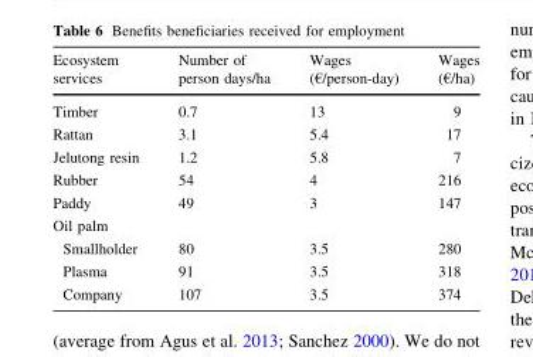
<table><thead><tr><td>Ecosystem services</td><td>Number of person days/ha</td><td>Wages (€/person-day)</td><td>Wages (€/ha)</td></tr></thead><tbody><tr><td>Timber</td><td>0.7</td><td>13</td><td>9</td></tr><tr><td>Rattan</td><td>3.1</td><td>5.4</td><td>17</td></tr><tr><td>Jelutong resin</td><td>1.2</td><td>5.8</td><td>7</td></tr><tr><td>Rubber</td><td>54</td><td>4</td><td>216</td></tr><tr><td>Paddy</td><td>49</td><td>3</td><td>147</td></tr><tr><td colspan="4">Oil palm</td></tr><tr><td>Smallholder</td><td>80</td><td>3.5</td><td>280</td></tr><tr><td>Plasma</td><td>91</td><td>3.5</td><td>318</td></tr><tr><td>Company</td><td>107</td><td>3.5</td><td>374</td></tr></tbody></table>